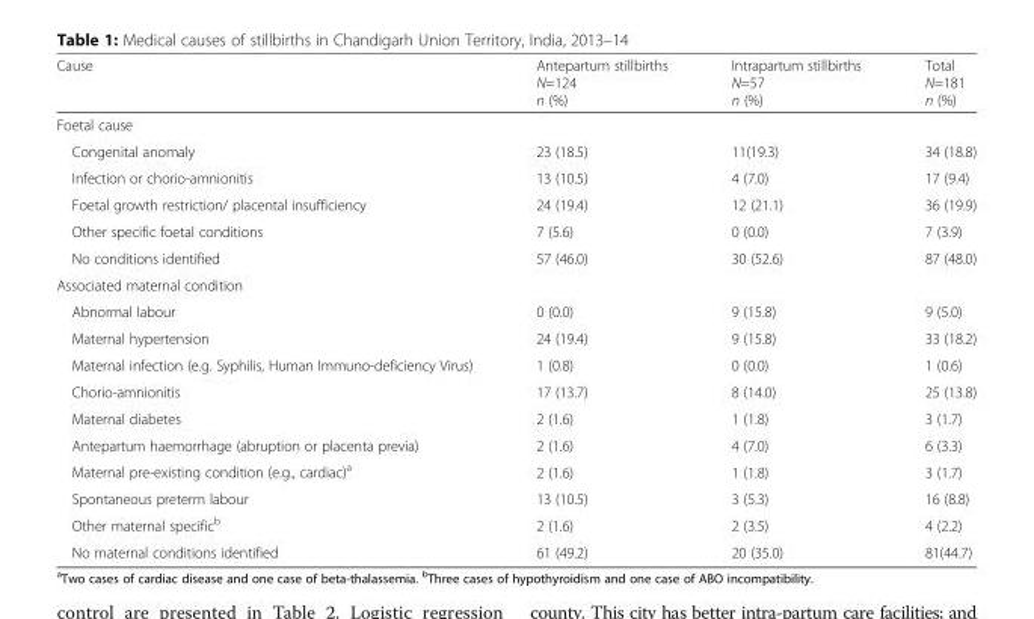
<table><thead><tr><td>Cause</td><td>Antepartum stillbirths N=124 n (%)</td><td>Intrapartum stillbirths N=57 n (%)</td><td>Total N=181 n (%)</td></tr></thead><tbody><tr><td colspan="4">Foetal cause</td></tr><tr><td>Congenital anomaly</td><td>23 (18.5)</td><td>11(19.3)</td><td>34 (18.8)</td></tr><tr><td>Infection or chorio-amnionitis</td><td>13 (10.5)</td><td>4 (7.0)</td><td>17 (9.4)</td></tr><tr><td>Foetal growth restriction/ placental insufficiency</td><td>24 (19.4)</td><td>12 (21.1)</td><td>36 (19.9)</td></tr><tr><td>Other specific foetal conditions</td><td>7 (5.6)</td><td>0 (0.0)</td><td>7 (3.9)</td></tr><tr><td>No conditions identified</td><td>57 (46.0)</td><td>30 (52.6)</td><td>87 (48.0)</td></tr><tr><td colspan="4">Associated maternal condition</td></tr><tr><td>Abnormal labour</td><td>0 (0.0)</td><td>9 (15.8)</td><td>9 (5.0)</td></tr><tr><td>Maternal hypertension</td><td>24 (19.4)</td><td>9 (15.8)</td><td>33 (18.2)</td></tr><tr><td>Maternal infection (e.g. Syphilis, Human Immuno-deficiency Virus)</td><td>1 (0.8)</td><td>0 (0.0)</td><td>1 (0.6)</td></tr><tr><td>Chorio-amnionitis</td><td>17 (13.7)</td><td>8 (14.0)</td><td>25 (13.8)</td></tr><tr><td>Maternal diabetes</td><td>2 (1.6)</td><td>1 (1.8)</td><td>3 (1.7)</td></tr><tr><td>Antepartum haemorrhage (abruption or placenta previa)</td><td>2 (1.6)</td><td>4 (7.0)</td><td>6 (3.3)</td></tr><tr><td>Maternal pre-existing condition (e.g., cardiac)<sup>a</sup></td><td>2 (1.6)</td><td>1 (1.8)</td><td>3 (1.7)</td></tr><tr><td>Spontaneous preterm labour</td><td>13 (10.5)</td><td>3 (5.3)</td><td>16 (8.8)</td></tr><tr><td>Other maternal specific<sup>b</sup></td><td>2 (1.6)</td><td>2 (3.5)</td><td>4 (2.2)</td></tr><tr><td>No maternal conditions identified</td><td>61 (49.2)</td><td>20 (35.0)</td><td>81(44.7)</td></tr></tbody></table>